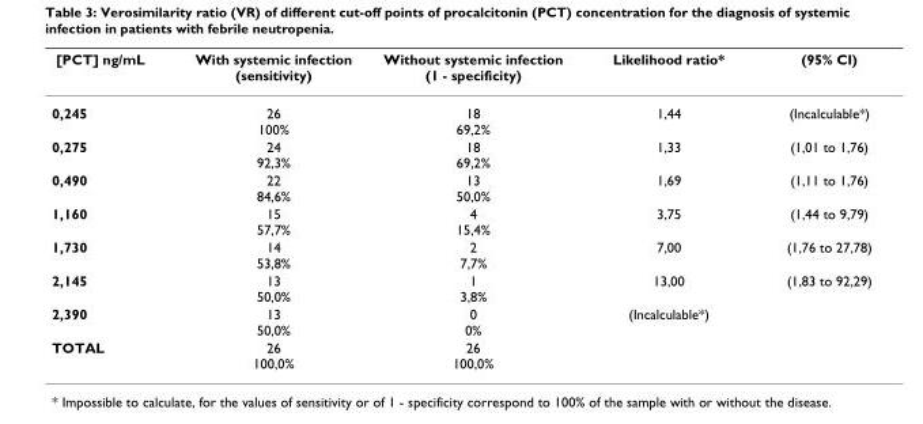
<table><thead><tr><td>[PCT] ng/mL</td><td>With systemic infection (sensitivity)</td><td>Without systemic infection (1 - specificity)</td><td>Likelihood ratio*</td><td>(95% CI)</td></tr></thead><tbody><tr><td>0,245</td><td>26 100%</td><td>18 69,2%</td><td>1,44</td><td>(Incalculable*)</td></tr><tr><td>0,275</td><td>24 92,3%</td><td>18 69,2%</td><td>1,33</td><td>(1,01 to 1,76)</td></tr><tr><td>0,490</td><td>22 84,6%</td><td>13 50,0%</td><td>1,69</td><td>(1,11 to 1,76)</td></tr><tr><td>1,160</td><td>15 57,7%</td><td>4 15,4%</td><td>3,75</td><td>(1,44 to 9,79)</td></tr><tr><td>1,730</td><td>14 53,8%</td><td>2 7,7%</td><td>7,00</td><td>(1,76 to 27,78)</td></tr><tr><td>2,145</td><td>13 50,0%</td><td>1 3,8%</td><td>13,00</td><td>(1,83 to 92,29)</td></tr><tr><td>2,390</td><td>13 50,0%</td><td>0 0%</td><td>(Incalculable*)</td><td></td></tr><tr><td>TOTAL</td><td>26 100,0%</td><td>26 100,0%</td><td></td><td></td></tr></tbody></table>